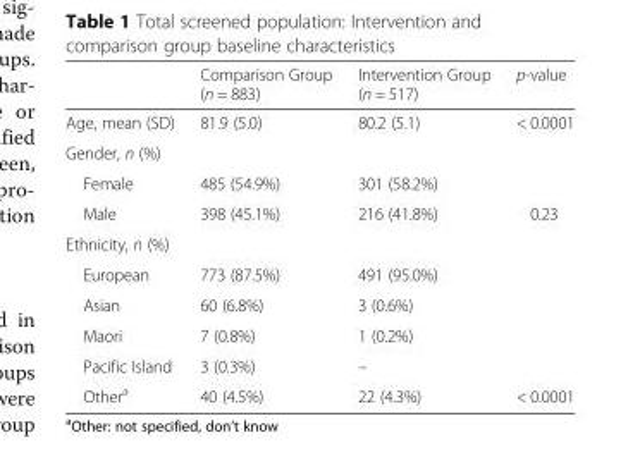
<table><thead><tr><td></td><td>Comparison Group (n = 883)</td><td>Intervention Group (n = 517)</td><td>p-value</td></tr></thead><tbody><tr><td>Age, mean (SD)</td><td>81.9 (5.0)</td><td>80.2 (5.1)</td><td>&lt; 0.0001</td></tr><tr><td colspan="4">Gender, n (%)</td></tr><tr><td>Female</td><td>485 (54.9%)</td><td>301 (58.2%)</td><td></td></tr><tr><td>Male</td><td>398 (45.1%)</td><td>216 (41.8%)</td><td>0.23</td></tr><tr><td colspan="4">Ethnicity, n (%)</td></tr><tr><td>European</td><td>773 (87.5%)</td><td>491 (95.0%)</td><td></td></tr><tr><td>Asian</td><td>60 (6.8%)</td><td>3 (0.6%)</td><td></td></tr><tr><td>Maori</td><td>7 (0.8%)</td><td>1 (0.2%)</td><td></td></tr><tr><td>Pacific Island</td><td>3 (0.3%)</td><td>–</td><td></td></tr><tr><td>Other<sup>a</sup></td><td>40 (4.5%)</td><td>22 (4.3%)</td><td>&lt; 0.0001</td></tr></tbody></table>